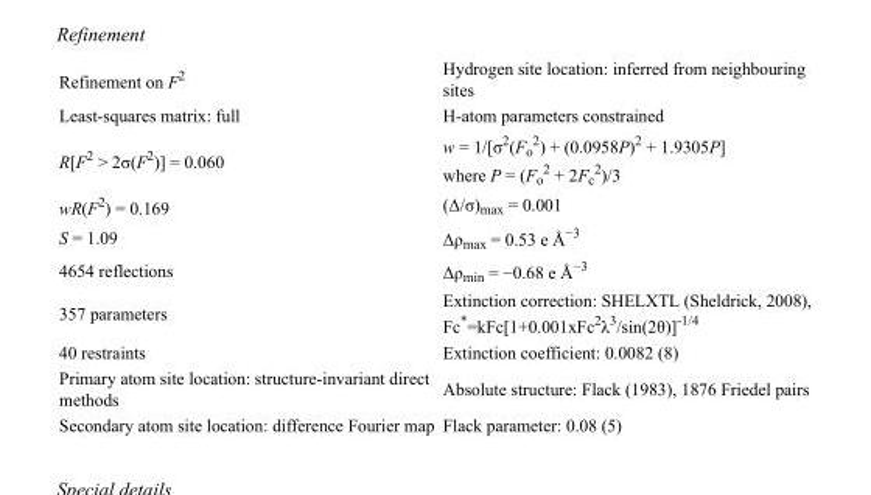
<table><tbody><tr><td>Refinement on F<sup>2</sup></td><td>Hydrogen site location: inferred from neighbouring sites</td></tr><tr><td>Least-squares matrix: full</td><td>H-atom parameters constrained</td></tr><tr><td>R[F<sup>2</sup> &gt; 2σ(F<sup>2</sup>)] = 0.060</td><td>w = 1/[σ<sup>2</sup>(F<sub>o</sub> <sup>2</sup>) + (0.0958P)<sup>2</sup> + 1.9305P] where P = (F<sub>o</sub> <sup>2</sup> + 2F<sub>c</sub> <sup>2</sup>)/3</td></tr><tr><td>wR(F<sup>2</sup>) = 0.169</td><td>(Δ/σ)<sub>max</sub> = 0.001</td></tr><tr><td>S = 1.09</td><td>Δρ<sub>max</sub> = 0.53 e Å<sup>−3</sup></td></tr><tr><td>4654 reflections</td><td>Δρ<sub>min</sub> = −0.68 e Å<sup>−3</sup></td></tr><tr><td>357 parameters</td><td>Extinction correction: SHELXTL (Sheldrick, 2008), Fc*=kFc[1+0.001xFc<sup>2</sup>λ<sup>3</sup>/sin(2θ)]<sup>-1/4</sup></td></tr><tr><td>40 restraints</td><td>Extinction coefficient: 0.0082 (8)</td></tr><tr><td>Primary atom site location: structure-invariant direct methods</td><td>Absolute structure: Flack (1983), 1876 Friedel pairs</td></tr><tr><td>Secondary atom site location: difference Fourier map</td><td>Flack parameter: 0.08 (5)</td></tr></tbody></table>